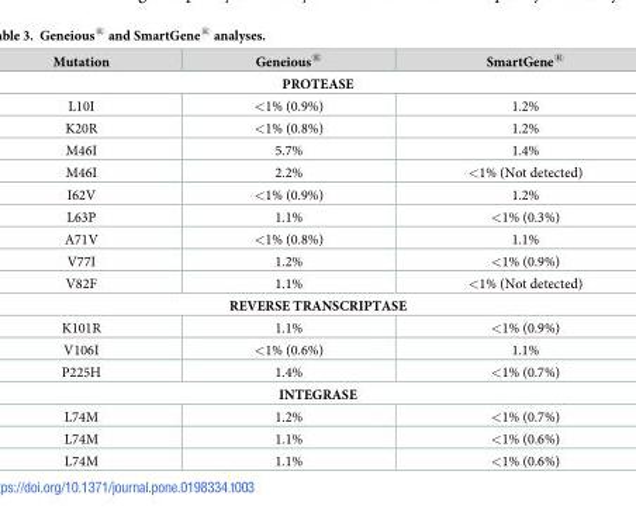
<table><thead><tr><td>Mutation</td><td>Geneious<sup>®</sup></td><td>SmartGene<sup>®</sup></td></tr></thead><tbody><tr><td colspan="3">PROTEASE</td></tr><tr><td>L10I</td><td>&lt;1% (0.9%)</td><td>1.2%</td></tr><tr><td>K20R</td><td>&lt;1% (0.8%)</td><td>1.2%</td></tr><tr><td>M46I</td><td>5.7%</td><td>1.4%</td></tr><tr><td>M46I</td><td>2.2%</td><td>&lt;1% (Not detected)</td></tr><tr><td>I62V</td><td>&lt;1% (0.9%)</td><td>1.2%</td></tr><tr><td>L63P</td><td>1.1%</td><td>&lt;1% (0.3%)</td></tr><tr><td>A71V</td><td>&lt;1% (0.8%)</td><td>1.1%</td></tr><tr><td>V77I</td><td>1.2%</td><td>&lt;1% (0.9%)</td></tr><tr><td>V82F</td><td>1.1%</td><td>&lt;1% (Not detected)</td></tr><tr><td colspan="3">REVERSE TRANSCRIPTASE</td></tr><tr><td>K101R</td><td>1.1%</td><td>&lt;1% (0.9%)</td></tr><tr><td>V106I</td><td>&lt;1% (0.6%)</td><td>1.1%</td></tr><tr><td>P225H</td><td>1.4%</td><td>&lt;1% (0.7%)</td></tr><tr><td colspan="3">INTEGRASE</td></tr><tr><td>L74M</td><td>1.2%</td><td>&lt;1% (0.7%)</td></tr><tr><td>L74M</td><td>1.1%</td><td>&lt;1% (0.6%)</td></tr><tr><td>L74M</td><td>1.1%</td><td>&lt;1% (0.6%)</td></tr></tbody></table>